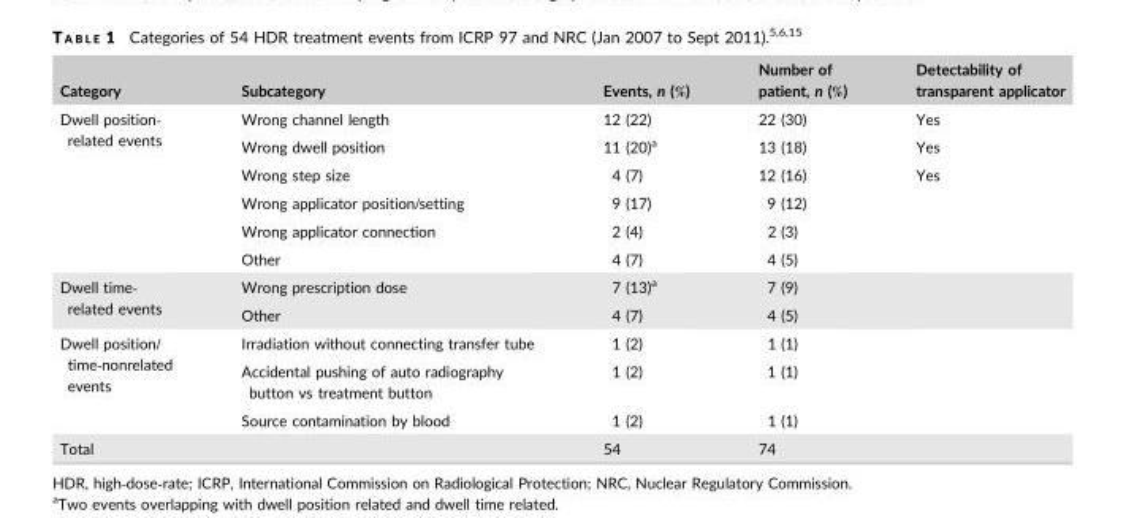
<table><thead><tr><td>Category</td><td>Subcategory</td><td>Events, n (%)</td><td>Number of patient, n (%)</td><td>Detectability of transparent applicator</td></tr></thead><tbody><tr><td rowspan="6">Dwell position‐ related events</td><td>Wrong channel length</td><td>12 (22)</td><td>22 (30)</td><td>Yes</td></tr><tr><td>Wrong dwell position</td><td>11 (20)<sup>a</sup></td><td>13 (18)</td><td>Yes</td></tr><tr><td>Wrong step size</td><td>4 (7)</td><td>12 (16)</td><td>Yes</td></tr><tr><td>Wrong applicator position/setting</td><td>9 (17)</td><td>9 (12)</td><td></td></tr><tr><td>Wrong applicator connection</td><td>2 (4)</td><td>2 (3)</td><td></td></tr><tr><td>Other</td><td>4 (7)</td><td>4 (5)</td><td></td></tr><tr><td rowspan="2">Dwell time‐ related events</td><td>Wrong prescription dose</td><td>7 (13)<sup>a</sup></td><td>7 (9)</td><td></td></tr><tr><td>Other</td><td>4 (7)</td><td>4 (5)</td><td></td></tr><tr><td rowspan="3">Dwell position/ time‐nonrelated events</td><td>Irradiation without connecting transfer tube</td><td>1 (2)</td><td>1 (1)</td><td></td></tr><tr><td>Accidental pushing of auto radiography button vs treatment button</td><td>1 (2)</td><td>1 (1)</td><td></td></tr><tr><td>Source contamination by blood</td><td>1 (2)</td><td>1 (1)</td><td></td></tr><tr><td>Total</td><td></td><td>54</td><td>74</td><td></td></tr></tbody></table>